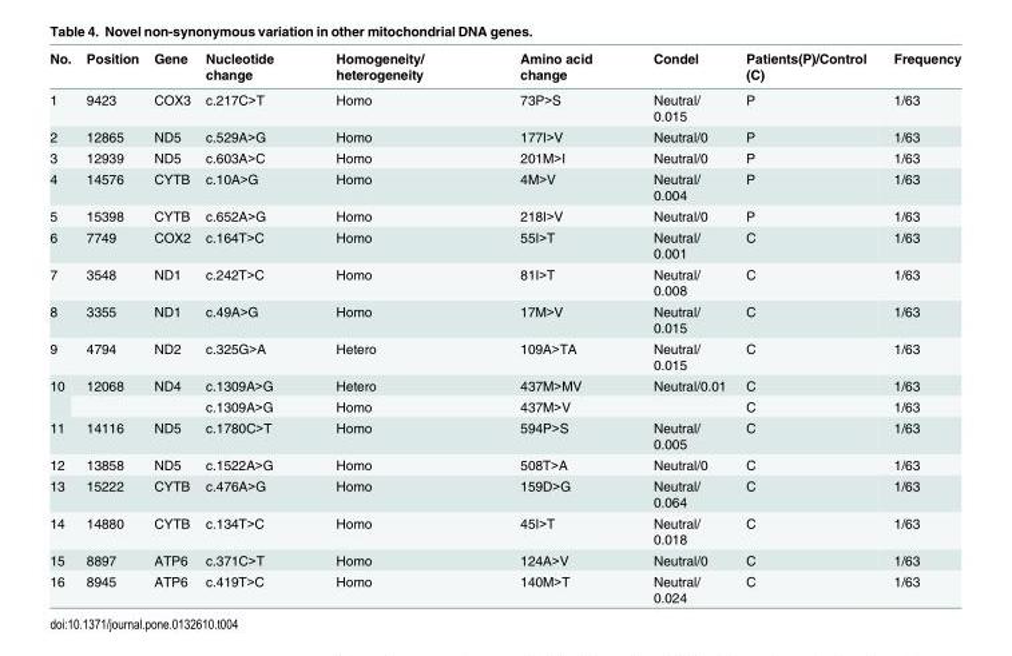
<table><thead><tr><td>No.</td><td>Position</td><td>Gene</td><td>Nucleotide change</td><td>Homogeneity/ heterogeneity</td><td>Amino acid change</td><td>Condel</td><td>Patients(P)/Control (C)</td><td>Frequency</td></tr></thead><tbody><tr><td>1</td><td>9423</td><td>COX3</td><td>c.217C&gt;T</td><td>Homo</td><td>73P&gt;S</td><td>Neutral/ 0.015</td><td>P</td><td>1/63</td></tr><tr><td>2</td><td>12865</td><td>ND5</td><td>c.529A&gt;G</td><td>Homo</td><td>177I&gt;V</td><td>Neutral/0</td><td>P</td><td>1/63</td></tr><tr><td>3</td><td>12939</td><td>ND5</td><td>c.603A&gt;C</td><td>Homo</td><td>201M&gt;I</td><td>Neutral/0</td><td>P</td><td>1/63</td></tr><tr><td>4</td><td>14576</td><td>CYTB</td><td>c.10A&gt;G</td><td>Homo</td><td>4M&gt;V</td><td>Neutral/ 0.004</td><td>P</td><td>1/63</td></tr><tr><td>5</td><td>15398</td><td>CYTB</td><td>c.652A&gt;G</td><td>Homo</td><td>218I&gt;V</td><td>Neutral/0</td><td>P</td><td>1/63</td></tr><tr><td>6</td><td>7749</td><td>COX2</td><td>c.164T&gt;C</td><td>Homo</td><td>55I&gt;T</td><td>Neutral/ 0.001</td><td>C</td><td>1/63</td></tr><tr><td>7</td><td>3548</td><td>ND1</td><td>c.242T&gt;C</td><td>Homo</td><td>81I&gt;T</td><td>Neutral/ 0.008</td><td>C</td><td>1/63</td></tr><tr><td>8</td><td>3355</td><td>ND1</td><td>c.49A&gt;G</td><td>Homo</td><td>17M&gt;V</td><td>Neutral/ 0.015</td><td>C</td><td>1/63</td></tr><tr><td>9</td><td>4794</td><td>ND2</td><td>c.325G&gt;A</td><td>Hetero</td><td>109A&gt;TA</td><td>Neutral/ 0.015</td><td>C</td><td>1/63</td></tr><tr><td rowspan="2">10</td><td>12068</td><td>ND4</td><td>c.1309A&gt;G</td><td>Hetero</td><td>437M&gt;MV</td><td>Neutral/0.01</td><td>C</td><td>1/63</td></tr><tr><td></td><td></td><td>c.1309A&gt;G</td><td>Homo</td><td>437M&gt;V</td><td></td><td>C</td><td>1/63</td></tr><tr><td>11</td><td>14116</td><td>ND5</td><td>c.1780C&gt;T</td><td>Homo</td><td>594P&gt;S</td><td>Neutral/ 0.005</td><td>C</td><td>1/63</td></tr><tr><td>12</td><td>13858</td><td>ND5</td><td>c.1522A&gt;G</td><td>Homo</td><td>508T&gt;A</td><td>Neutral/0</td><td>C</td><td>1/63</td></tr><tr><td>13</td><td>15222</td><td>CYTB</td><td>c.476A&gt;G</td><td>Homo</td><td>159D&gt;G</td><td>Neutral/ 0.064</td><td>C</td><td>1/63</td></tr><tr><td>14</td><td>14880</td><td>CYTB</td><td>c.134T&gt;C</td><td>Homo</td><td>45I&gt;T</td><td>Neutral/ 0.018</td><td>C</td><td>1/63</td></tr><tr><td>15</td><td>8897</td><td>ATP6</td><td>c.371C&gt;T</td><td>Homo</td><td>124A&gt;V</td><td>Neutral/0</td><td>C</td><td>1/63</td></tr><tr><td>16</td><td>8945</td><td>ATP6</td><td>c.419T&gt;C</td><td>Homo</td><td>140M&gt;T</td><td>Neutral/ 0.024</td><td>C</td><td>1/63</td></tr></tbody></table>